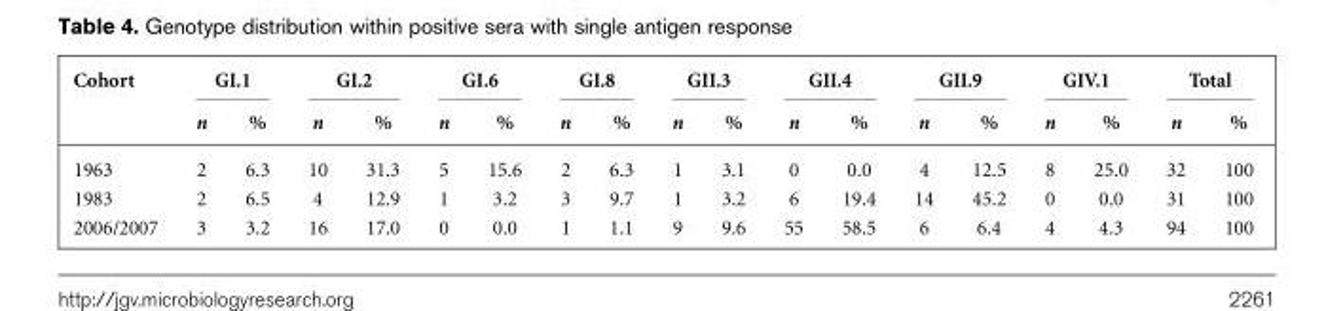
<table><thead><tr><td rowspan="2">Cohort</td><td colspan="2">GI.1</td><td colspan="2">GI.2</td><td colspan="2">GI.6</td><td colspan="2">GI.8</td><td colspan="2">GII.3</td><td colspan="2">GII.4</td><td colspan="2">GII.9</td><td colspan="2">GIV.1</td><td colspan="2">Total</td></tr><tr><td>n</td><td>%</td><td>n</td><td>%</td><td>n</td><td>%</td><td>n</td><td>%</td><td>n</td><td>%</td><td>n</td><td>%</td><td>n</td><td>%</td><td>n</td><td>%</td><td>n</td><td>%</td></tr></thead><tbody><tr><td>1963</td><td>2</td><td>6.3</td><td>10</td><td>31.3</td><td>5</td><td>15.6</td><td>2</td><td>6.3</td><td>1</td><td>3.1</td><td>0</td><td>0.0</td><td>4</td><td>12.5</td><td>8</td><td>25.0</td><td>32</td><td>100</td></tr><tr><td>1983</td><td>2</td><td>6.5</td><td>4</td><td>12.9</td><td>1</td><td>3.2</td><td>3</td><td>9.7</td><td>1</td><td>3.2</td><td>6</td><td>19.4</td><td>14</td><td>45.2</td><td>0</td><td>0.0</td><td>31</td><td>100</td></tr><tr><td>2006/2007</td><td>3</td><td>3.2</td><td>16</td><td>17.0</td><td>0</td><td>0.0</td><td>1</td><td>1.1</td><td>9</td><td>9.6</td><td>55</td><td>58.5</td><td>6</td><td>6.4</td><td>4</td><td>4.3</td><td>94</td><td>100</td></tr></tbody></table>